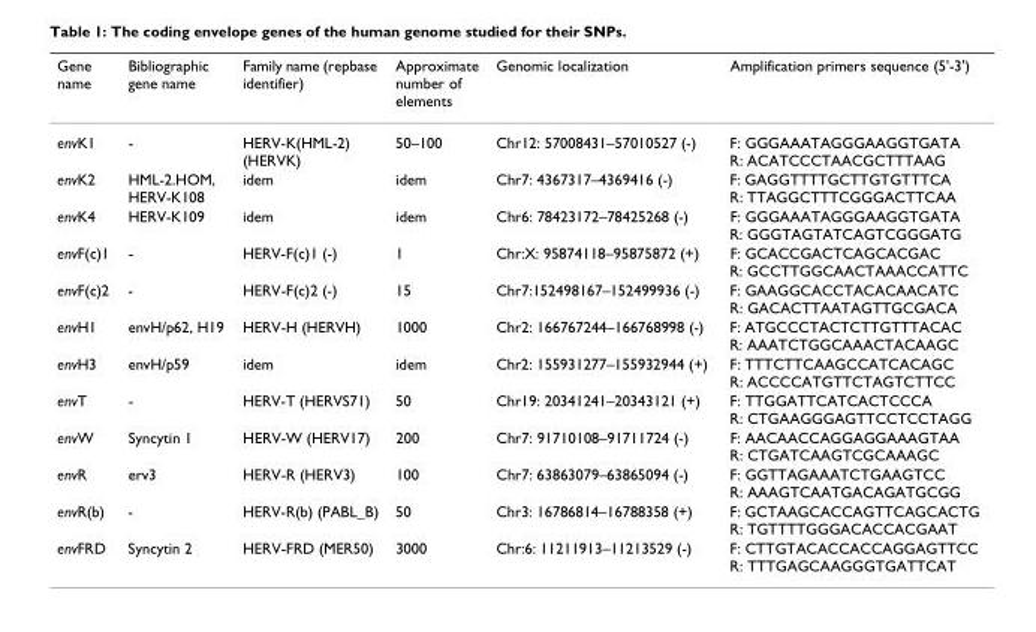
<table><thead><tr><td>Gene name</td><td>Bibliographic gene name</td><td>Family name (repbase identifier)</td><td>Approximate number of elements</td><td>Genomic localization</td><td>Amplification primers sequence (5&#x27;-3&#x27;)</td></tr></thead><tbody><tr><td>envK1</td><td>-</td><td>HERV-K(HML-2) (HERVK)</td><td>50–100</td><td>Chr12: 57008431–57010527 (-)</td><td>F: GGGAAATAGGGAAGGTGATA R: ACATCCCTAACGCTTTAAG</td></tr><tr><td>envK2</td><td>HML-2.HOM, HERV-K108</td><td>idem</td><td>idem</td><td>Chr7: 4367317–4369416 (-)</td><td>F: GAGGTTTTGCTTGTGTTTCA R: TTAGGCTTTCGGGACTTCAA</td></tr><tr><td>envK4</td><td>HERV-K109</td><td>idem</td><td>idem</td><td>Chr6: 78423172–78425268 (-)</td><td>F: GGGAAATAGGGAAGGTGATA R: GGGTAGTATCAGTCGGGATG</td></tr><tr><td>envF(c)1</td><td>-</td><td>HERV-F(c)1 (-)</td><td>1</td><td>Chr:X: 95874118–95875872 (+)</td><td>F: GCACCGACTCAGCACGAC R: GCCTTGGCAACTAAACCATTC</td></tr><tr><td>envF(c)2</td><td>-</td><td>HERV-F(c)2 (-)</td><td>15</td><td>Chr7:152498167–152499936 (-)</td><td>F: GAAGGCACCTACACAACATC R: GACACTTAATAGTTGCGACA</td></tr><tr><td>envH1</td><td>envH/p62, H19</td><td>HERV-H (HERVH)</td><td>1000</td><td>Chr2: 166767244–166768998 (-)</td><td>F: ATGCCCTACTCTTGTTTACAC R: AAATCTGGCAAACTACAAGC</td></tr><tr><td>envH3</td><td>envH/p59</td><td>idem</td><td>idem</td><td>Chr2: 155931277–155932944 (+)</td><td>F: TTTCTTCAAGCCATCACAGC R: ACCCCATGTTCTAGTCTTCC</td></tr><tr><td>envT</td><td>-</td><td>HERV-T (HERVS71)</td><td>50</td><td>Chr19: 20341241–20343121 (+)</td><td>F: TTGGATTCATCACTCCCA R: CTGAAGGGAGTTCCTCCTAGG</td></tr><tr><td>envW</td><td>Syncytin 1</td><td>HERV-W (HERV17)</td><td>200</td><td>Chr7: 91710108–91711724 (-)</td><td>F: AACAACCAGGAGGAAAGTAA R: CTGATCAAGTCGCAAAGC</td></tr><tr><td>envR</td><td>erv3</td><td>HERV-R (HERV3)</td><td>100</td><td>Chr7: 63863079–63865094 (-)</td><td>F: GGTTAGAAATCTGAAGTCC R: AAAGTCAATGACAGATGCGG</td></tr><tr><td>envR(b)</td><td>-</td><td>HERV-R(b) (PABL_B)</td><td>50</td><td>Chr3: 16786814–16788358 (+)</td><td>F: GCTAAGCACCAGTTCAGCACTG R: TGTTTTGGGACACCACGAAT</td></tr><tr><td>envFRD</td><td>Syncytin 2</td><td>HERV-FRD (MER50)</td><td>3000</td><td>Chr:6: 11211913–11213529 (-)</td><td>F: CTTGTACACCACCAGGAGTTCC R: TTTGAGCAAGGGTGATTCAT</td></tr></tbody></table>